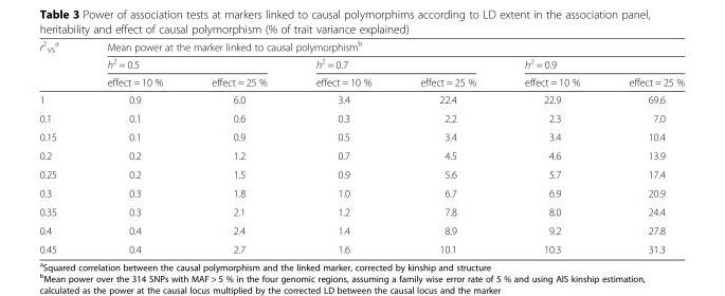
<table><thead><tr><td rowspan="3">r<sup>2</sup> <sub>VS</sub> <sup>a</sup></td><td colspan="6">Mean power at the marker linked to causal polymorphism<sup>b</sup></td></tr><tr><td colspan="2">h<sup>2</sup> = 0.5</td><td colspan="2">h<sup>2</sup> = 0.7</td><td colspan="2">h<sup>2</sup> = 0.9</td></tr><tr><td>effect = 10 %</td><td>effect = 25 %</td><td>effect = 10 %</td><td>effect = 25 %</td><td>effect = 10 %</td><td>effect = 25 %</td></tr></thead><tbody><tr><td>1</td><td>0.9</td><td>6.0</td><td>3.4</td><td>22.4</td><td>22.9</td><td>69.6</td></tr><tr><td>0.1</td><td>0.1</td><td>0.6</td><td>0.3</td><td>2.2</td><td>2.3</td><td>7.0</td></tr><tr><td>0.15</td><td>0.1</td><td>0.9</td><td>0.5</td><td>3.4</td><td>3.4</td><td>10.4</td></tr><tr><td>0.2</td><td>0.2</td><td>1.2</td><td>0.7</td><td>4.5</td><td>4.6</td><td>13.9</td></tr><tr><td>0.25</td><td>0.2</td><td>1.5</td><td>0.9</td><td>5.6</td><td>5.7</td><td>17.4</td></tr><tr><td>0.3</td><td>0.3</td><td>1.8</td><td>1.0</td><td>6.7</td><td>6.9</td><td>20.9</td></tr><tr><td>0.35</td><td>0.3</td><td>2.1</td><td>1.2</td><td>7.8</td><td>8.0</td><td>24.4</td></tr><tr><td>0.4</td><td>0.4</td><td>2.4</td><td>1.4</td><td>8.9</td><td>9.2</td><td>27.8</td></tr><tr><td>0.45</td><td>0.4</td><td>2.7</td><td>1.6</td><td>10.1</td><td>10.3</td><td>31.3</td></tr></tbody></table>